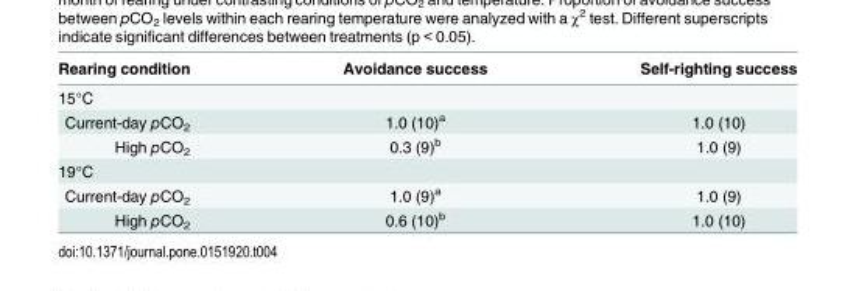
<table><thead><tr><td>Rearing condition</td><td>Avoidance success</td><td>Self-righting success</td></tr></thead><tbody><tr><td colspan="3">15°C</td></tr><tr><td>Current-day pCO<sub>2</sub></td><td>1.0 (10)<sup>a</sup></td><td>1.0 (10)</td></tr><tr><td>High pCO<sub>2</sub></td><td>0.3 (9)<sup>b</sup></td><td>1.0 (9)</td></tr><tr><td colspan="3">19°C</td></tr><tr><td>Current-day pCO<sub>2</sub></td><td>1.0 (9)<sup>a</sup></td><td>1.0 (9)</td></tr><tr><td>High pCO<sub>2</sub></td><td>0.6 (10)<sup>b</sup></td><td>1.0 (10)</td></tr></tbody></table>